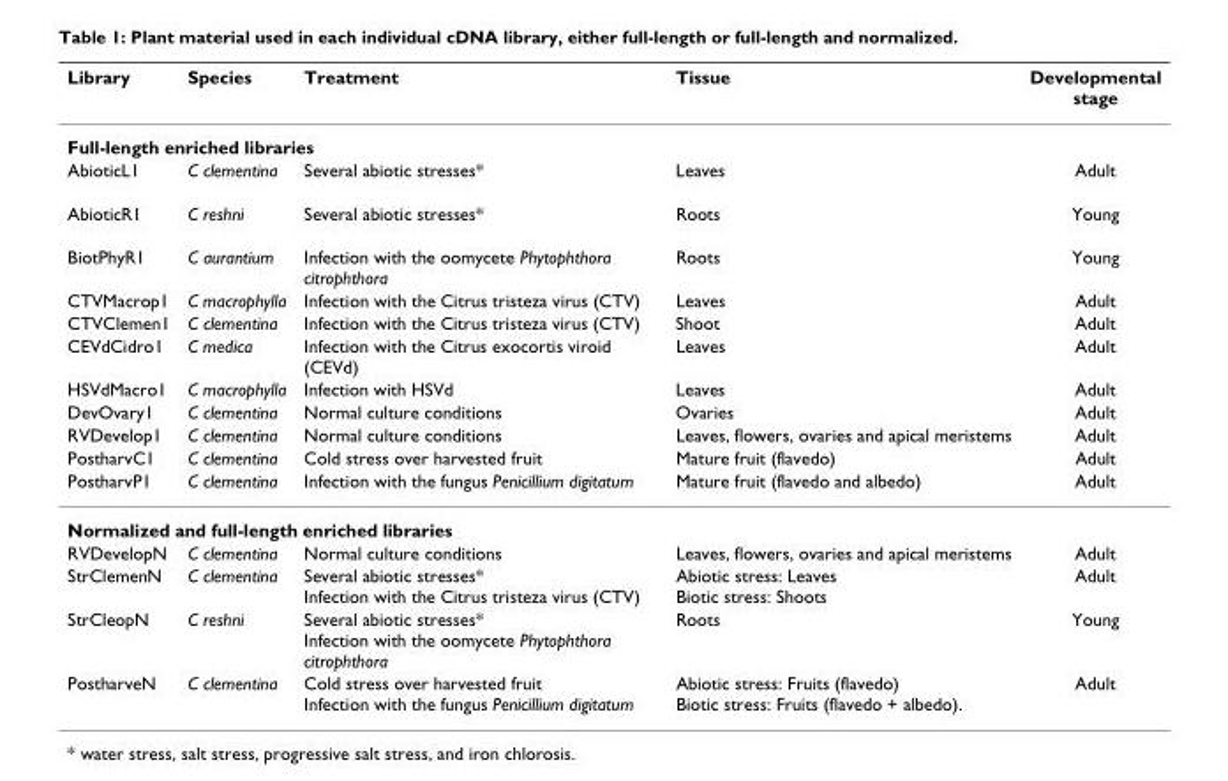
<table><thead><tr><td>Library</td><td>Species</td><td>Treatment</td><td>Tissue</td><td>Developmental stage</td></tr></thead><tbody><tr><td colspan="5">Full-length enriched libraries</td></tr><tr><td>AbioticL1</td><td>C clementina</td><td>Several abiotic stresses*</td><td>Leaves</td><td>Adult</td></tr><tr><td>AbioticR1</td><td>C reshni</td><td>Several abiotic stresses*</td><td>Roots</td><td>Young</td></tr><tr><td>BiotPhyR1</td><td>C aurantium</td><td>Infection with the oomycete Phytophthora citrophthora</td><td>Roots</td><td>Young</td></tr><tr><td>CTVMacrop1</td><td>C macrophylla</td><td>Infection with the Citrus tristeza virus (CTV)</td><td>Leaves</td><td>Adult</td></tr><tr><td>CTVClemen1</td><td>C clementina</td><td>Infection with the Citrus tristeza virus (CTV)</td><td>Shoot</td><td>Adult</td></tr><tr><td>CEVdCidro1</td><td>C medica</td><td>Infection with the Citrus exocortis viroid (CEVd)</td><td>Leaves</td><td>Adult</td></tr><tr><td>HSVdMacro1</td><td>C macrophylla</td><td>Infection with HSVd</td><td>Leaves</td><td>Adult</td></tr><tr><td>DevOvary1</td><td>C clementina</td><td>Normal culture conditions</td><td>Ovaries</td><td>Adult</td></tr><tr><td>RVDevelop1</td><td>C clementina</td><td>Normal culture conditions</td><td>Leaves, flowers, ovaries and apical meristems</td><td>Adult</td></tr><tr><td>PostharvC1</td><td>C clementina</td><td>Cold stress over harvested fruit</td><td>Mature fruit (flavedo)</td><td>Adult</td></tr><tr><td>PostharvP1</td><td>C clementina</td><td>Infection with the fungus Penicillium digitatum</td><td>Mature fruit (flavedo and albedo)</td><td>Adult</td></tr><tr><td colspan="5">Normalized and full-length enriched libraries</td></tr><tr><td>RVDevelopN</td><td>C clementina</td><td>Normal culture conditions</td><td>Leaves, flowers, ovaries and apical meristems</td><td>Adult</td></tr><tr><td>StrClemenN</td><td>C clementina</td><td>Several abiotic stresses* Infection with the Citrus tristeza virus (CTV)</td><td>Abiotic stress: Leaves Biotic stress: Shoots</td><td>Adult</td></tr><tr><td>StrCleopN</td><td>C reshni</td><td>Several abiotic stresses* Infection with the oomycete Phytophthora citrophthora</td><td>Roots</td><td>Young</td></tr><tr><td>PostharveN</td><td>C clementina</td><td>Cold stress over harvested fruit Infection with the fungus Penicillium digitatum</td><td>Abiotic stress: Fruits (flavedo) Biotic stress: Fruits (flavedo + albedo).</td><td>Adult</td></tr></tbody></table>